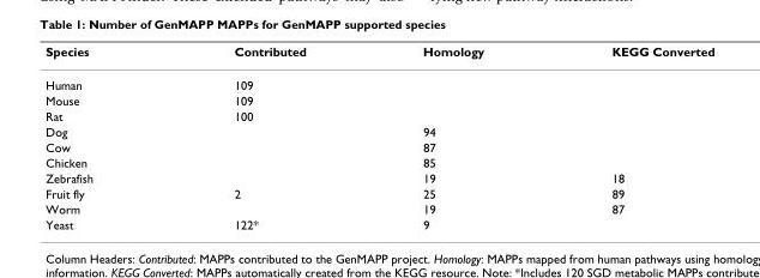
<table><thead><tr><td>Species</td><td>Contributed</td><td>Homology</td><td>KEGG Converted</td></tr></thead><tbody><tr><td>Human</td><td>109</td><td></td><td></td></tr><tr><td>Mouse</td><td>109</td><td></td><td></td></tr><tr><td>Rat</td><td>100</td><td></td><td></td></tr><tr><td>Dog</td><td></td><td>94</td><td></td></tr><tr><td>Cow</td><td></td><td>87</td><td></td></tr><tr><td>Chicken</td><td></td><td>85</td><td></td></tr><tr><td>Zebrafish</td><td></td><td>19</td><td>18</td></tr><tr><td>Fruit fly</td><td>2</td><td>25</td><td>89</td></tr><tr><td>Worm</td><td></td><td>19</td><td>87</td></tr><tr><td>Yeast</td><td>122*</td><td>9</td><td></td></tr></tbody></table>